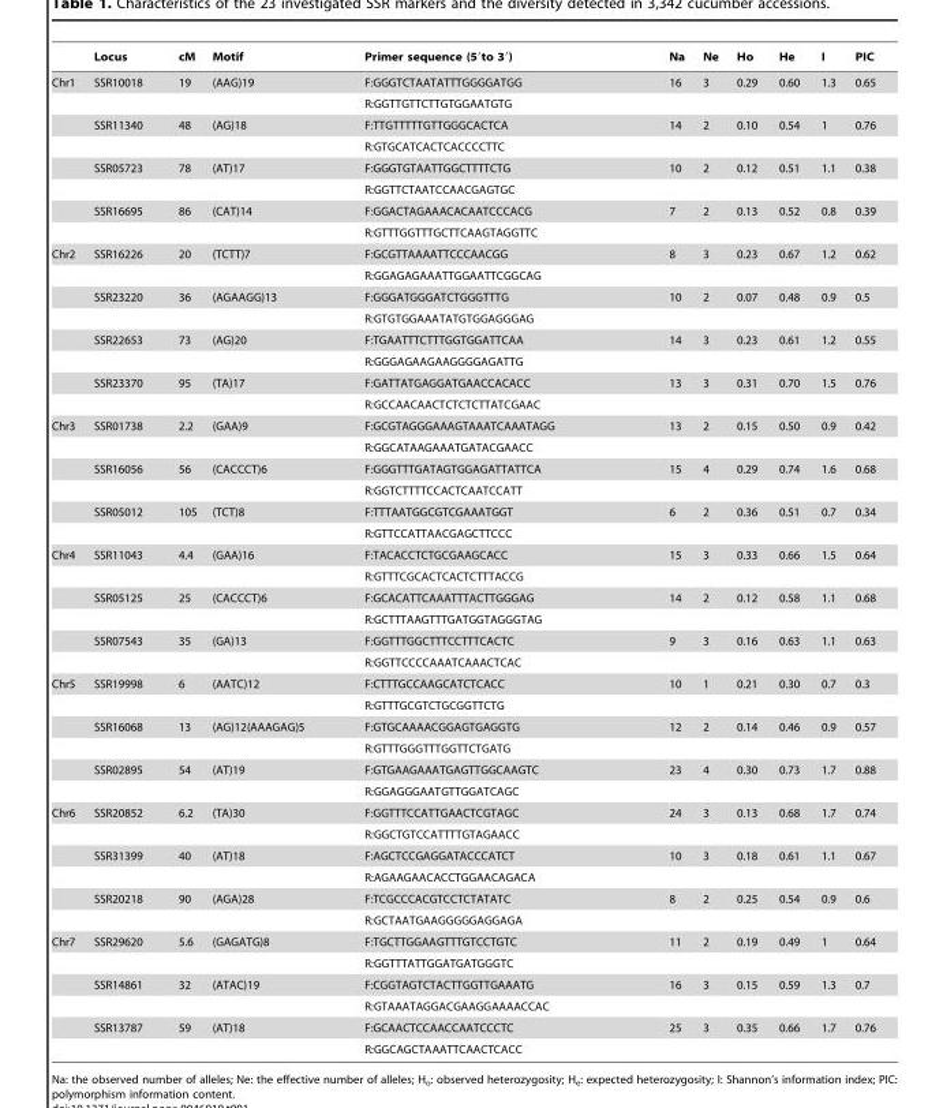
<table><thead><tr><td></td><td>Locus</td><td>cM</td><td>Motif</td><td>Primer sequence (5′to 3′)</td><td>Na</td><td>Ne</td><td>Ho</td><td>He</td><td>I</td><td>PIC</td></tr></thead><tbody><tr><td rowspan="8">Chr1</td><td>SSR10018</td><td>19</td><td>(AAG)19</td><td>F:GGGTCTAATATTTGGGGATGG</td><td>16</td><td>3</td><td>0.29</td><td>0.60</td><td>1.3</td><td>0.65</td></tr><tr><td></td><td></td><td></td><td>R:GGTTGTTCTTGTGGAATGTG</td><td></td><td></td><td></td><td></td><td></td><td></td></tr><tr><td>SSR11340</td><td>48</td><td>(AG)18</td><td>F:TTGTTTTTGTTGGGCACTCA</td><td>14</td><td>2</td><td>0.10</td><td>0.54</td><td>1</td><td>0.76</td></tr><tr><td></td><td></td><td></td><td>R:GTGCATCACTCACCCCTTC</td><td></td><td></td><td></td><td></td><td></td><td></td></tr><tr><td>SSR05723</td><td>78</td><td>(AT)17</td><td>F:GGGTGTAATTGGCTTTTCTG</td><td>10</td><td>2</td><td>0.12</td><td>0.51</td><td>1.1</td><td>0.38</td></tr><tr><td></td><td></td><td></td><td>R:GGTTCTAATCCAACGAGTGC</td><td></td><td></td><td></td><td></td><td></td><td></td></tr><tr><td>SSR16695</td><td>86</td><td>(CAT)14</td><td>F:GGACTAGAAACACAATCCCACG</td><td>7</td><td>2</td><td>0.13</td><td>0.52</td><td>0.8</td><td>0.39</td></tr><tr><td></td><td></td><td></td><td>R:GTTTGGTTTGCTTCAAGTAGGTTC</td><td></td><td></td><td></td><td></td><td></td><td></td></tr><tr><td rowspan="8">Chr2</td><td>SSR16226</td><td>20</td><td>(TCTT)7</td><td>F:GCGTTAAAATTCCCAACGG</td><td>8</td><td>3</td><td>0.23</td><td>0.67</td><td>1.2</td><td>0.62</td></tr><tr><td></td><td></td><td></td><td>R:GGAGAGAAATTGGAATTCGGCAG</td><td></td><td></td><td></td><td></td><td></td><td></td></tr><tr><td>SSR23220</td><td>36</td><td>(AGAAGG)13</td><td>F:GGGATGGGATCTGGGTTTG</td><td>10</td><td>2</td><td>0.07</td><td>0.48</td><td>0.9</td><td>0.5</td></tr><tr><td></td><td></td><td></td><td>R:GTGTGGAAATATGTGGAGGGAG</td><td></td><td></td><td></td><td></td><td></td><td></td></tr><tr><td>SSR22653</td><td>73</td><td>(AG)20</td><td>F:TGAATTTCTTTGGTGGATTCAA</td><td>14</td><td>3</td><td>0.23</td><td>0.61</td><td>1.2</td><td>0.55</td></tr><tr><td></td><td></td><td></td><td>R:GGGAGAAGAAGGGGAGATTG</td><td></td><td></td><td></td><td></td><td></td><td></td></tr><tr><td>SSR23370</td><td>95</td><td>(TA)17</td><td>F:GATTATGAGGATGAACCACACC</td><td>13</td><td>3</td><td>0.31</td><td>0.70</td><td>1.5</td><td>0.76</td></tr><tr><td></td><td></td><td></td><td>R:GCCAACAACTCTCTCTTATCGAAC</td><td></td><td></td><td></td><td></td><td></td><td></td></tr><tr><td rowspan="6">Chr3</td><td>SSR01738</td><td>2.2</td><td>(GAA)9</td><td>F:GCGTAGGGAAAGTAAATCAAATAGG</td><td>13</td><td>2</td><td>0.15</td><td>0.50</td><td>0.9</td><td>0.42</td></tr><tr><td></td><td></td><td></td><td>R:GGCATAAGAAATGATACGAACC</td><td></td><td></td><td></td><td></td><td></td><td></td></tr><tr><td>SSR16056</td><td>56</td><td>(CACCCT)6</td><td>F:GGGTTTGATAGTGGAGATTATTCA</td><td>15</td><td>4</td><td>0.29</td><td>0.74</td><td>1.6</td><td>0.68</td></tr><tr><td></td><td></td><td></td><td>R:GGTCTTTTCCACTCAATCCATT</td><td></td><td></td><td></td><td></td><td></td><td></td></tr><tr><td>SSR05012</td><td>105</td><td>(TCT)8</td><td>F:TTTAATGGCGTCGAAATGGT</td><td>6</td><td>2</td><td>0.36</td><td>0.51</td><td>0.7</td><td>0.34</td></tr><tr><td></td><td></td><td></td><td>R:GTTCCATTAACGAGCTTCCC</td><td></td><td></td><td></td><td></td><td></td><td></td></tr><tr><td rowspan="6">Chr4</td><td>SSR11043</td><td>4.4</td><td>(GAA)16</td><td>F:TACACCTCTGCGAAGCACC</td><td>15</td><td>3</td><td>0.33</td><td>0.66</td><td>1.5</td><td>0.64</td></tr><tr><td></td><td></td><td></td><td>R:GTTTCGCACTCACTCTTTACCG</td><td></td><td></td><td></td><td></td><td></td><td></td></tr><tr><td>SSR05125</td><td>25</td><td>(CACCCT)6</td><td>F:GCACATTCAAATTTACTTGGGAG</td><td>14</td><td>2</td><td>0.12</td><td>0.58</td><td>1.1</td><td>0.68</td></tr><tr><td></td><td></td><td></td><td>R:GCTTTAAGTTTGATGGTAGGGTAG</td><td></td><td></td><td></td><td></td><td></td><td></td></tr><tr><td>SSR07543</td><td>35</td><td>(GA)13</td><td>F:GGTTTGGCTTTCCTTTCACTC</td><td>9</td><td>3</td><td>0.16</td><td>0.63</td><td>1.1</td><td>0.63</td></tr><tr><td></td><td></td><td></td><td>R:GGTTCCCCAAATCAAACTCAC</td><td></td><td></td><td></td><td></td><td></td><td></td></tr><tr><td rowspan="6">Chr5</td><td>SSR19998</td><td>6</td><td>(AATC)12</td><td>F:CTTTGCCAAGCATCTCACC</td><td>10</td><td>1</td><td>0.21</td><td>0.30</td><td>0.7</td><td>0.3</td></tr><tr><td></td><td></td><td></td><td>R:GTTTGCGTCTGCGGTTCTG</td><td></td><td></td><td></td><td></td><td></td><td></td></tr><tr><td>SSR16068</td><td>13</td><td>(AG)12(AAAGAG)5</td><td>F:GTGCAAAACGGAGTGAGGTG</td><td>12</td><td>2</td><td>0.14</td><td>0.46</td><td>0.9</td><td>0.57</td></tr><tr><td></td><td></td><td></td><td>R:GTTTGGGTTTGGTTCTGATG</td><td></td><td></td><td></td><td></td><td></td><td></td></tr><tr><td>SSR02895</td><td>54</td><td>(AT)19</td><td>F:GTGAAGAAATGAGTTGGCAAGTC</td><td>23</td><td>4</td><td>0.30</td><td>0.73</td><td>1.7</td><td>0.88</td></tr><tr><td></td><td></td><td></td><td>R:GGAGGGAATGTTGGATCAGC</td><td></td><td></td><td></td><td></td><td></td><td></td></tr><tr><td rowspan="6">Chr6</td><td>SSR20852</td><td>6.2</td><td>(TA)30</td><td>F:GGTTTCCATTGAACTCGTAGC</td><td>24</td><td>3</td><td>0.13</td><td>0.68</td><td>1.7</td><td>0.74</td></tr><tr><td></td><td></td><td></td><td>R:GGCTGTCCATTTTGTAGAACC</td><td></td><td></td><td></td><td></td><td></td><td></td></tr><tr><td>SSR31399</td><td>40</td><td>(AT)18</td><td>F:AGCTCCGAGGATACCCATCT</td><td>10</td><td>3</td><td>0.18</td><td>0.61</td><td>1.1</td><td>0.67</td></tr><tr><td></td><td></td><td></td><td>R:AGAAGAACACCTGGAACAGACA</td><td></td><td></td><td></td><td></td><td></td><td></td></tr><tr><td>SSR20218</td><td>90</td><td>(AGA)28</td><td>F:TCGCCCACGTCCTCTATATC</td><td>8</td><td>2</td><td>0.25</td><td>0.54</td><td>0.9</td><td>0.6</td></tr><tr><td></td><td></td><td></td><td>R:GCTAATGAAGGGGGAGGAGA</td><td></td><td></td><td></td><td></td><td></td><td></td></tr><tr><td rowspan="6">Chr7</td><td>SSR29620</td><td>5.6</td><td>(GAGATG)8</td><td>F:TGCTTGGAAGTTTGTCCTGTC</td><td>11</td><td>2</td><td>0.19</td><td>0.49</td><td>1</td><td>0.64</td></tr><tr><td></td><td></td><td></td><td>R:GGTTTATTGGATGATGGGTC</td><td></td><td></td><td></td><td></td><td></td><td></td></tr><tr><td>SSR14861</td><td>32</td><td>(ATAC)19</td><td>F:CGGTAGTCTACTTGGTTGAAATG</td><td>16</td><td>3</td><td>0.15</td><td>0.59</td><td>1.3</td><td>0.7</td></tr><tr><td></td><td></td><td></td><td>R:GTAAATAGGACGAAGGAAAACCAC</td><td></td><td></td><td></td><td></td><td></td><td></td></tr><tr><td>SSR13787</td><td>59</td><td>(AT)18</td><td>F:GCAACTCCAACCAATCCCTC</td><td>25</td><td>3</td><td>0.35</td><td>0.66</td><td>1.7</td><td>0.76</td></tr><tr><td></td><td></td><td></td><td>R:GGCAGCTAAATTCAACTCACC</td><td></td><td></td><td></td><td></td><td></td><td></td></tr></tbody></table>